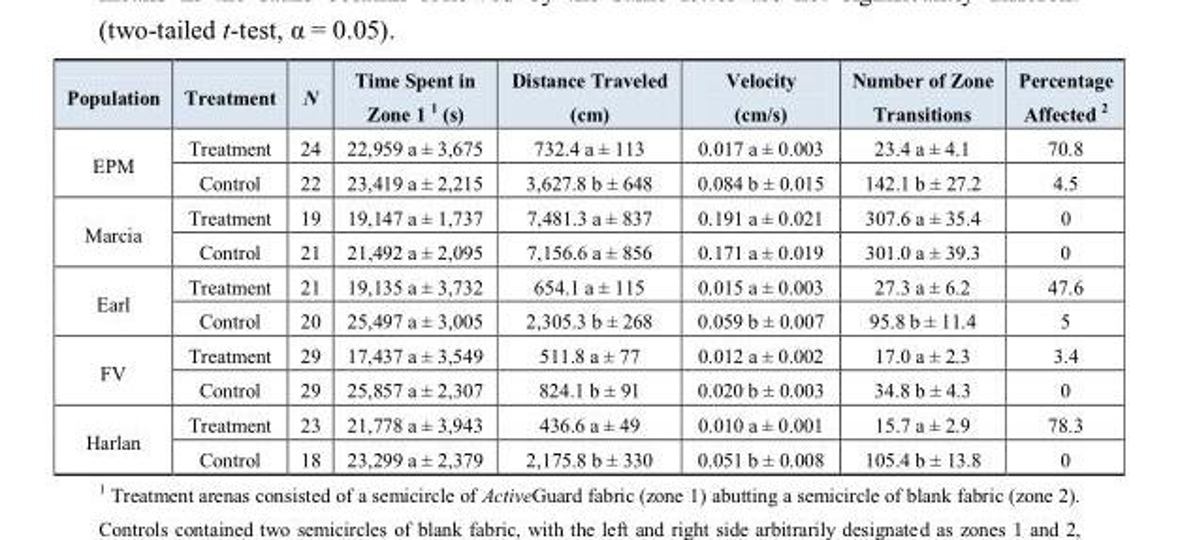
<table><thead><tr><td>Population</td><td>Treatment</td><td>N</td><td>Time Spent in Zone 1 <sup>1</sup> (s)</td><td>Distance Traveled (cm)</td><td>Velocity (cm/s)</td><td>Number of Zone Transitions</td><td>Percentage Affected <sup>2</sup></td></tr></thead><tbody><tr><td rowspan="2">EPM</td><td>Treatment</td><td>24</td><td>22,959 a ± 3,675</td><td>732.4 a ± 113</td><td>0.017 a ± 0.003</td><td>23.4 a ± 4.1</td><td>70.8</td></tr><tr><td>Control</td><td>22</td><td>23,419 a ± 2,215</td><td>3,627.8 b ± 648</td><td>0.084 b ± 0.015</td><td>142.1 b ± 27.2</td><td>4.5</td></tr><tr><td rowspan="2">Marcia</td><td>Treatment</td><td>19</td><td>19,147 a ± 1,737</td><td>7,481.3 a ± 837</td><td>0.191 a ± 0.021</td><td>307.6 a ± 35.4</td><td>0</td></tr><tr><td>Control</td><td>21</td><td>21,492 a ± 2,095</td><td>7,156.6 a ± 856</td><td>0.171 a ± 0.019</td><td>301.0 a ± 39.3</td><td>0</td></tr><tr><td rowspan="2">Earl</td><td>Treatment</td><td>21</td><td>19,135 a ± 3,732</td><td>654.1 a ± 115</td><td>0.015 a ± 0.003</td><td>27.3 a ± 6.2</td><td>47.6</td></tr><tr><td>Control</td><td>20</td><td>25,497 a ± 3,005</td><td>2,305.3 b ± 268</td><td>0.059 b ± 0.007</td><td>95.8 b ± 11.4</td><td>5</td></tr><tr><td rowspan="2">FV</td><td>Treatment</td><td>29</td><td>17,437 a ± 3,549</td><td>511.8 a ± 77</td><td>0.012 a ± 0.002</td><td>17.0 a ± 2.3</td><td>3.4</td></tr><tr><td>Control</td><td>29</td><td>25,857 a ± 2,307</td><td>824.1 b ± 91</td><td>0.020 b ± 0.003</td><td>34.8 b ± 4.3</td><td>0</td></tr><tr><td rowspan="2">Harlan</td><td>Treatment</td><td>23</td><td>21,778 a ± 3,943</td><td>436.6 a ± 49</td><td>0.010 a ± 0.001</td><td>15.7 a ± 2.9</td><td>78.3</td></tr><tr><td>Control</td><td>18</td><td>23,299 a ± 2,379</td><td>2,175.8 b ± 330</td><td>0.051 b ± 0.008</td><td>105.4 b ± 13.8</td><td>0</td></tr></tbody></table>